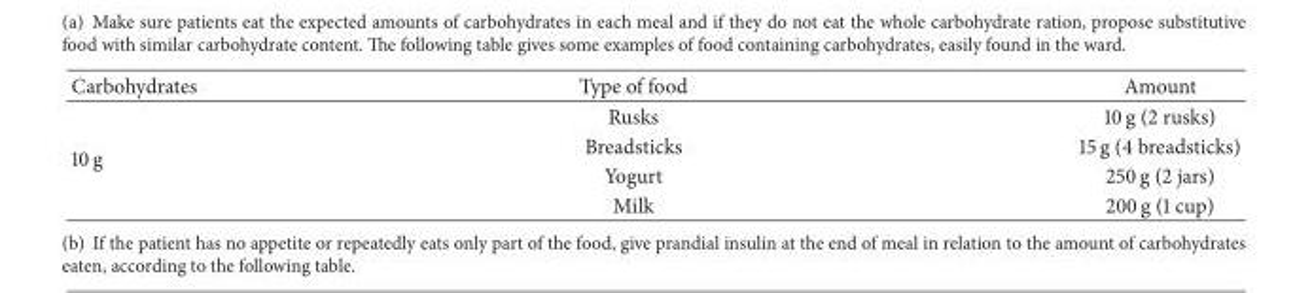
<table><thead><tr><td>Carbohydrates</td><td>Type of food</td><td>Amount</td></tr></thead><tbody><tr><td rowspan="4">10 g</td><td>Rusks</td><td>10 g (2 rusks)</td></tr><tr><td>Breadsticks</td><td>15 g (4 breadsticks)</td></tr><tr><td>Yogurt</td><td>250 g (2 jars)</td></tr><tr><td>Milk</td><td>200 g (1 cup)</td></tr></tbody></table>